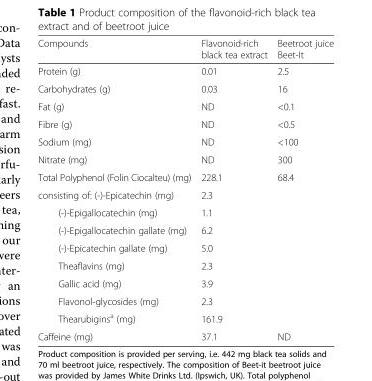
<table><thead><tr><td>Compounds</td><td>Flavonoid-rich black tea extract</td><td>Beetroot juice Beet-It</td></tr></thead><tbody><tr><td>Protein (g)</td><td>0.01</td><td>2.5</td></tr><tr><td>Carbohydrates (g)</td><td>0.03</td><td>16</td></tr><tr><td>Fat (g)</td><td>ND</td><td>&lt;0.1</td></tr><tr><td>Fibre (g)</td><td>ND</td><td>&lt;0.5</td></tr><tr><td>Sodium (mg)</td><td>ND</td><td>&lt;100</td></tr><tr><td>Nitrate (mg)</td><td>ND</td><td>300</td></tr><tr><td>Total Polyphenol (Folin Ciocalteu) (mg)</td><td>228.1</td><td>68.4</td></tr><tr><td>consisting of: (-)-Epicatechin (mg)</td><td>2.3</td><td></td></tr><tr><td>(-)-Epigallocatechin (mg)</td><td>1.1</td><td></td></tr><tr><td>(-)-Epigallocatechin gallate (mg)</td><td>6.2</td><td></td></tr><tr><td>(-)-Epicatechin gallate (mg)</td><td>5.0</td><td></td></tr><tr><td>Theaflavins (mg)</td><td>2.3</td><td></td></tr><tr><td>Gallic acid (mg)</td><td>3.9</td><td></td></tr><tr><td>Flavonol-glycosides (mg)</td><td>2.3</td><td></td></tr><tr><td>Thearubigins<sup>a</sup> (mg)</td><td>161.9</td><td></td></tr><tr><td>Caffeine (mg)</td><td>37.1</td><td>ND</td></tr></tbody></table>